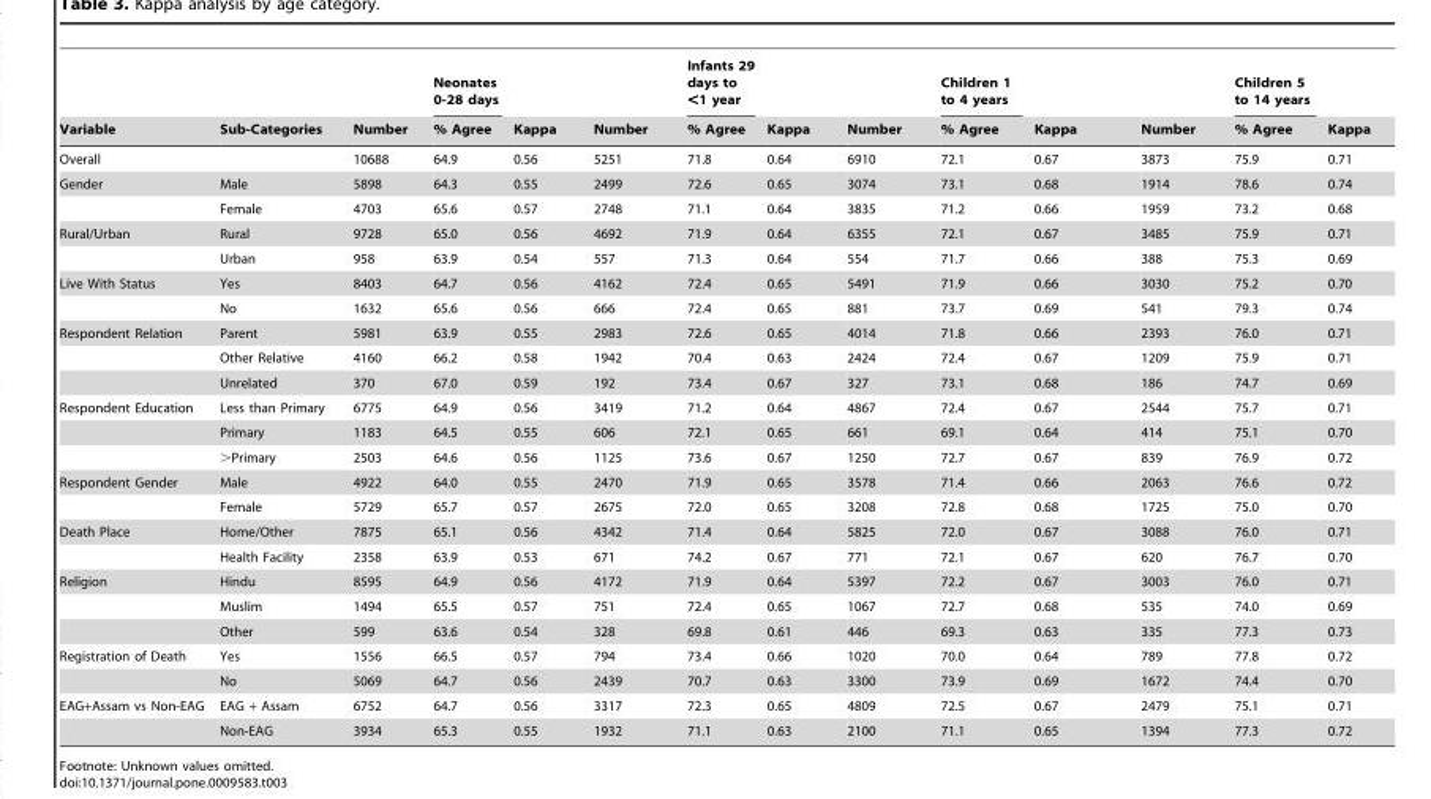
<table><thead><tr><td rowspan="2">Variable</td><td rowspan="2">Sub-Categories</td><td rowspan="2">Number</td><td rowspan="2">Neonates 0-28 days % Agree</td><td rowspan="2">Kappa</td><td rowspan="2">Number</td><td rowspan="2">Infants 29 days to &lt;1 year % Agree</td><td rowspan="2">Kappa</td><td rowspan="2">Number</td><td rowspan="2">Children 1 to 4 years % Agree</td><td rowspan="2">Kappa</td><td rowspan="2">Number</td><td rowspan="2">Children 5 to 14 years % Agree</td><td rowspan="2">Kappa</td></tr><tr></tr></thead><tbody><tr><td>Overall</td><td></td><td>10688</td><td>64.9</td><td>0.56</td><td>5251</td><td>71.8</td><td>0.64</td><td>6910</td><td>72.1</td><td>0.67</td><td>3873</td><td>75.9</td><td>0.71</td></tr><tr><td rowspan="2">Gender</td><td>Male</td><td>5898</td><td>64.3</td><td>0.55</td><td>2499</td><td>72.6</td><td>0.65</td><td>3074</td><td>73.1</td><td>0.68</td><td>1914</td><td>78.6</td><td>0.74</td></tr><tr><td>Female</td><td>4703</td><td>65.6</td><td>0.57</td><td>2748</td><td>71.1</td><td>0.64</td><td>3835</td><td>71.2</td><td>0.66</td><td>1959</td><td>73.2</td><td>0.68</td></tr><tr><td rowspan="2">Rural/Urban</td><td>Rural</td><td>9728</td><td>65.0</td><td>0.56</td><td>4692</td><td>71.9</td><td>0.64</td><td>6355</td><td>72.1</td><td>0.67</td><td>3485</td><td>75.9</td><td>0.71</td></tr><tr><td>Urban</td><td>958</td><td>63.9</td><td>0.54</td><td>557</td><td>71.3</td><td>0.64</td><td>554</td><td>71.7</td><td>0.66</td><td>388</td><td>75.3</td><td>0.69</td></tr><tr><td rowspan="2">Live With Status</td><td>Yes</td><td>8403</td><td>64.7</td><td>0.56</td><td>4162</td><td>72.4</td><td>0.65</td><td>5491</td><td>71.9</td><td>0.66</td><td>3030</td><td>75.2</td><td>0.70</td></tr><tr><td>No</td><td>1632</td><td>65.6</td><td>0.56</td><td>666</td><td>72.4</td><td>0.65</td><td>881</td><td>73.7</td><td>0.69</td><td>541</td><td>79.3</td><td>0.74</td></tr><tr><td rowspan="3">Respondent Relation</td><td>Parent</td><td>5981</td><td>63.9</td><td>0.55</td><td>2983</td><td>72.6</td><td>0.65</td><td>4014</td><td>71.8</td><td>0.66</td><td>2393</td><td>76.0</td><td>0.71</td></tr><tr><td>Other Relative</td><td>4160</td><td>66.2</td><td>0.58</td><td>1942</td><td>70.4</td><td>0.63</td><td>2424</td><td>72.4</td><td>0.67</td><td>1209</td><td>75.9</td><td>0.71</td></tr><tr><td>Unrelated</td><td>370</td><td>67.0</td><td>0.59</td><td>192</td><td>73.4</td><td>0.67</td><td>327</td><td>73.1</td><td>0.68</td><td>186</td><td>74.7</td><td>0.69</td></tr><tr><td rowspan="3">Respondent Education</td><td>Less than Primary</td><td>6775</td><td>64.9</td><td>0.56</td><td>3419</td><td>71.2</td><td>0.64</td><td>4867</td><td>72.4</td><td>0.67</td><td>2544</td><td>75.7</td><td>0.71</td></tr><tr><td>Primary</td><td>1183</td><td>64.5</td><td>0.55</td><td>606</td><td>72.1</td><td>0.65</td><td>661</td><td>69.1</td><td>0.64</td><td>414</td><td>75.1</td><td>0.70</td></tr><tr><td>&gt;Primary</td><td>2503</td><td>64.6</td><td>0.56</td><td>1125</td><td>73.6</td><td>0.67</td><td>1250</td><td>72.7</td><td>0.67</td><td>839</td><td>76.9</td><td>0.72</td></tr><tr><td rowspan="2">Respondent Gender</td><td>Male</td><td>4922</td><td>64.0</td><td>0.55</td><td>2470</td><td>71.9</td><td>0.65</td><td>3578</td><td>71.4</td><td>0.66</td><td>2063</td><td>76.6</td><td>0.72</td></tr><tr><td>Female</td><td>5729</td><td>65.7</td><td>0.57</td><td>2675</td><td>72.0</td><td>0.65</td><td>3208</td><td>72.8</td><td>0.68</td><td>1725</td><td>75.0</td><td>0.70</td></tr><tr><td rowspan="2">Death Place</td><td>Home/Other</td><td>7875</td><td>65.1</td><td>0.56</td><td>4342</td><td>71.4</td><td>0.64</td><td>5825</td><td>72.0</td><td>0.67</td><td>3088</td><td>76.0</td><td>0.71</td></tr><tr><td>Health Facility</td><td>2358</td><td>63.9</td><td>0.53</td><td>671</td><td>74.2</td><td>0.67</td><td>771</td><td>72.1</td><td>0.67</td><td>620</td><td>76.7</td><td>0.70</td></tr><tr><td rowspan="3">Religion</td><td>Hindu</td><td>8595</td><td>64.9</td><td>0.56</td><td>4172</td><td>71.9</td><td>0.64</td><td>5397</td><td>72.2</td><td>0.67</td><td>3003</td><td>76.0</td><td>0.71</td></tr><tr><td>Muslim</td><td>1494</td><td>65.5</td><td>0.57</td><td>751</td><td>72.4</td><td>0.65</td><td>1067</td><td>72.7</td><td>0.68</td><td>535</td><td>74.0</td><td>0.69</td></tr><tr><td>Other</td><td>599</td><td>63.6</td><td>0.54</td><td>328</td><td>69.8</td><td>0.61</td><td>446</td><td>69.3</td><td>0.63</td><td>335</td><td>77.3</td><td>0.73</td></tr><tr><td rowspan="2">Registration of Death</td><td>Yes</td><td>1556</td><td>66.5</td><td>0.57</td><td>794</td><td>73.4</td><td>0.66</td><td>1020</td><td>70.0</td><td>0.64</td><td>789</td><td>77.8</td><td>0.72</td></tr><tr><td>No</td><td>5069</td><td>64.7</td><td>0.56</td><td>2439</td><td>70.7</td><td>0.63</td><td>3300</td><td>73.9</td><td>0.69</td><td>1672</td><td>74.4</td><td>0.70</td></tr><tr><td rowspan="2">EAG+Assam vs Non-EAG</td><td>EAG + Assam</td><td>6752</td><td>64.7</td><td>0.56</td><td>3317</td><td>72.3</td><td>0.65</td><td>4809</td><td>72.5</td><td>0.67</td><td>2479</td><td>75.1</td><td>0.71</td></tr><tr><td>Non-EAG</td><td>3934</td><td>65.3</td><td>0.55</td><td>1932</td><td>71.1</td><td>0.63</td><td>2100</td><td>71.1</td><td>0.65</td><td>1394</td><td>77.3</td><td>0.72</td></tr></tbody></table>